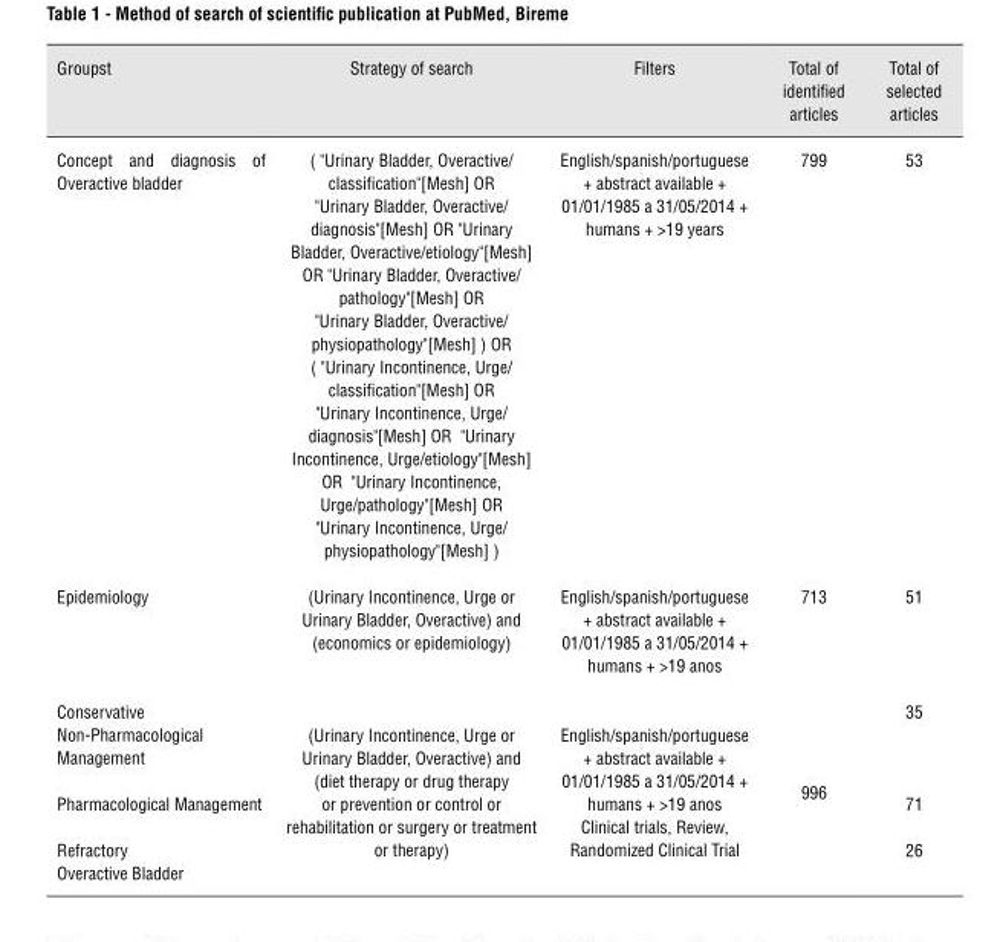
<table><thead><tr><td>Groupst</td><td>Strategy of search</td><td>Filters</td><td>Total of identified articles</td><td>Total of selected articles</td></tr></thead><tbody><tr><td>Concept and diagnosis of Overactive bladder</td><td>( &quot;Urinary Bladder, Overactive/ classification&quot;[Mesh] OR &quot;Urinary Bladder, Overactive/ diagnosis&quot;[Mesh] OR &quot;Urinary Bladder, Overactive/etiology&quot;[Mesh] OR &quot;Urinary Bladder, Overactive/ pathology&quot;[Mesh] OR &quot;Urinary Bladder, Overactive/ physiopathology&quot;[Mesh] ) OR ( &quot;Urinary Incontinence, Urge/ classification&quot;[Mesh] OR &quot;Urinary Incontinence, Urge/ diagnosis&quot;[Mesh] OR &quot;Urinary Incontinence, Urge/etiology&quot;[Mesh] OR &quot;Urinary Incontinence, Urge/pathology&quot;[Mesh] OR &quot;Urinary Incontinence, Urge/ physiopathology&quot;[Mesh] )</td><td>English/spanish/portuguese + abstract available + 01/01/1985 a 31/05/2014 + humans + &gt;19 years</td><td>799</td><td>53</td></tr><tr><td>Epidemiology</td><td>(Urinary Incontinence, Urge or Urinary Bladder, Overactive) and (economics or epidemiology)</td><td>English/spanish/portuguese + abstract available + 01/01/1985 a 31/05/2014 + humans + &gt;19 anos</td><td>713</td><td>51</td></tr><tr><td>Conservative Non-Pharmacological Management</td><td rowspan="3">(Urinary Incontinence, Urge or Urinary Bladder, Overactive) and (diet therapy or drug therapy or prevention or control or rehabilitation or surgery or treatment or therapy)</td><td rowspan="3">English/spanish/portuguese + abstract available + 01/01/1985 a 31/05/2014 + humans + &gt;19 anos Clinical trials, Review, Randomized Clinical Trial</td><td rowspan="3">996</td><td>35</td></tr><tr><td>Pharmacological Management</td><td>71</td></tr><tr><td>Refractory Overactive Bladder</td><td>26</td></tr></tbody></table>